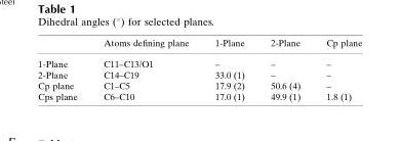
<table><thead><tr><td></td><td>Atoms defining plane</td><td>1-Plane</td><td>2-Plane</td><td>Cp plane</td></tr></thead><tbody><tr><td>1-Plane</td><td>C11–C13/O1</td><td>–</td><td>–</td><td>–</td></tr><tr><td>2-Plane</td><td>C14–C19</td><td>33.0 (1)</td><td>–</td><td>–</td></tr><tr><td>Cp plane</td><td>C1–C5</td><td>17.9 (2)</td><td>50.6 (4)</td><td>–</td></tr><tr><td>Cps plane</td><td>C6–C10</td><td>17.0 (1)</td><td>49.9 (1)</td><td>1.8 (1)</td></tr></tbody></table>